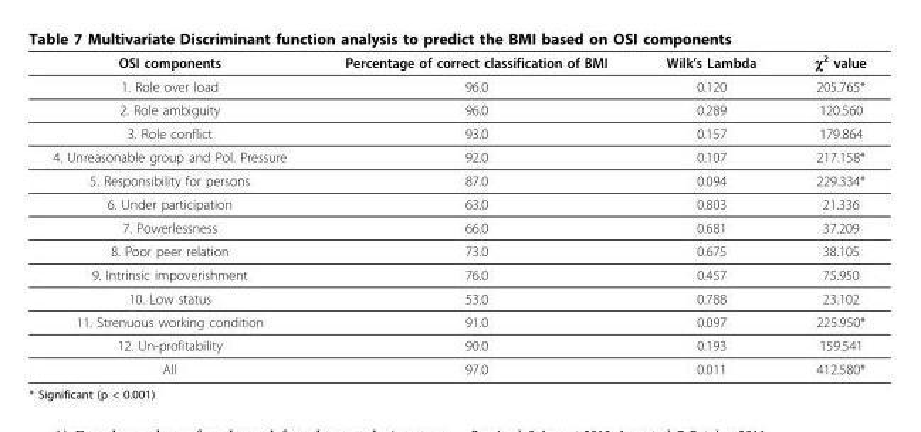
<table><thead><tr><td>OSI components</td><td>Percentage of correct classification of BMI</td><td>Wilk’s Lambda</td><td>χ<sup>2</sup> value</td></tr></thead><tbody><tr><td>1. Role over load</td><td>96.0</td><td>0.120</td><td>205.765*</td></tr><tr><td>2. Role ambiguity</td><td>96.0</td><td>0.289</td><td>120.560</td></tr><tr><td>3. Role conflict</td><td>93.0</td><td>0.157</td><td>179.864</td></tr><tr><td>4. Unreasonable group and Pol. Pressure</td><td>92.0</td><td>0.107</td><td>217.158*</td></tr><tr><td>5. Responsibility for persons</td><td>87.0</td><td>0.094</td><td>229.334*</td></tr><tr><td>6. Under participation</td><td>63.0</td><td>0.803</td><td>21.336</td></tr><tr><td>7. Powerlessness</td><td>66.0</td><td>0.681</td><td>37.209</td></tr><tr><td>8. Poor peer relation</td><td>73.0</td><td>0.675</td><td>38.105</td></tr><tr><td>9. Intrinsic impoverishment</td><td>76.0</td><td>0.457</td><td>75.950</td></tr><tr><td>10. Low status</td><td>53.0</td><td>0.788</td><td>23.102</td></tr><tr><td>11. Strenuous working condition</td><td>91.0</td><td>0.097</td><td>225.950*</td></tr><tr><td>12. Un-profitability</td><td>90.0</td><td>0.193</td><td>159.541</td></tr><tr><td>All</td><td>97.0</td><td>0.011</td><td>412.580*</td></tr></tbody></table>